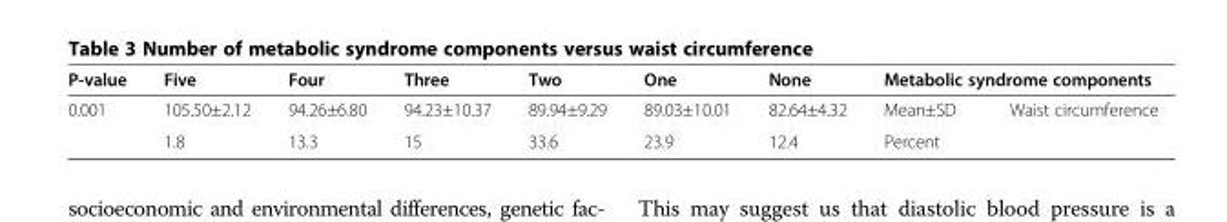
<table><thead><tr><td rowspan="2">P-value 0.001</td><td rowspan="2">Five 105.50±2.12</td><td rowspan="2">Four 94.26±6.80</td><td rowspan="2">Three 94.23±10.37</td><td rowspan="2">Two 89.94±9.29</td><td rowspan="2">One 89.03±10.01</td><td rowspan="2">None 82.64±4.32</td><td colspan="2">Metabolic syndrome components</td></tr><tr><td>Mean±SD</td><td>Waist circumference</td></tr></thead><tbody><tr><td></td><td>1.8</td><td>13.3</td><td>15</td><td>33.6</td><td>23.9</td><td>12.4</td><td>Percent</td><td></td></tr></tbody></table>